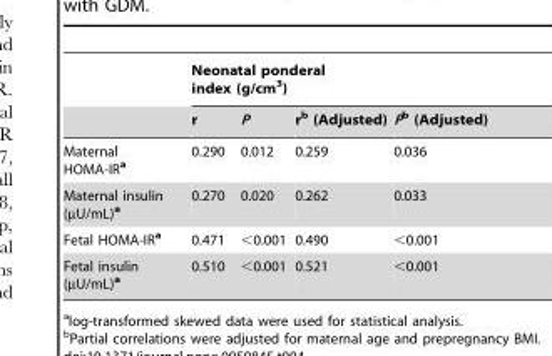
<table><thead><tr><td rowspan="2"></td><td colspan="4">Neonatal ponderal index (g/cm<sup>3</sup>)</td></tr><tr><td>r</td><td>P</td><td>r<sup>b</sup> (Adjusted)</td><td>Pb (Adjusted)</td></tr></thead><tbody><tr><td>Maternal HOMA-IR<sup>a</sup></td><td>0.290</td><td>0.012</td><td>0.259</td><td>0.036</td></tr><tr><td>Maternal insulin (µU/mL)<sup>a</sup></td><td>0.270</td><td>0.020</td><td>0.262</td><td>0.033</td></tr><tr><td>Fetal HOMA-IR<sup>a</sup></td><td>0.471</td><td>&lt;0.001</td><td>0.490</td><td>&lt;0.001</td></tr><tr><td>Fetal insulin (µU/mL)<sup>a</sup></td><td>0.510</td><td>&lt;0.001</td><td>0.521</td><td>&lt;0.001</td></tr></tbody></table>